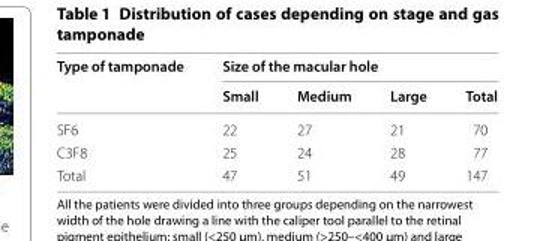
<table><thead><tr><td rowspan="2">Type of tamponade</td><td colspan="4">Size of the macular hole</td></tr><tr><td>Small</td><td>Medium</td><td>Large</td><td>Total</td></tr></thead><tbody><tr><td>SF6</td><td>22</td><td>27</td><td>21</td><td>70</td></tr><tr><td>C3F8</td><td>25</td><td>24</td><td>28</td><td>77</td></tr><tr><td>Total</td><td>47</td><td>51</td><td>49</td><td>147</td></tr></tbody></table>